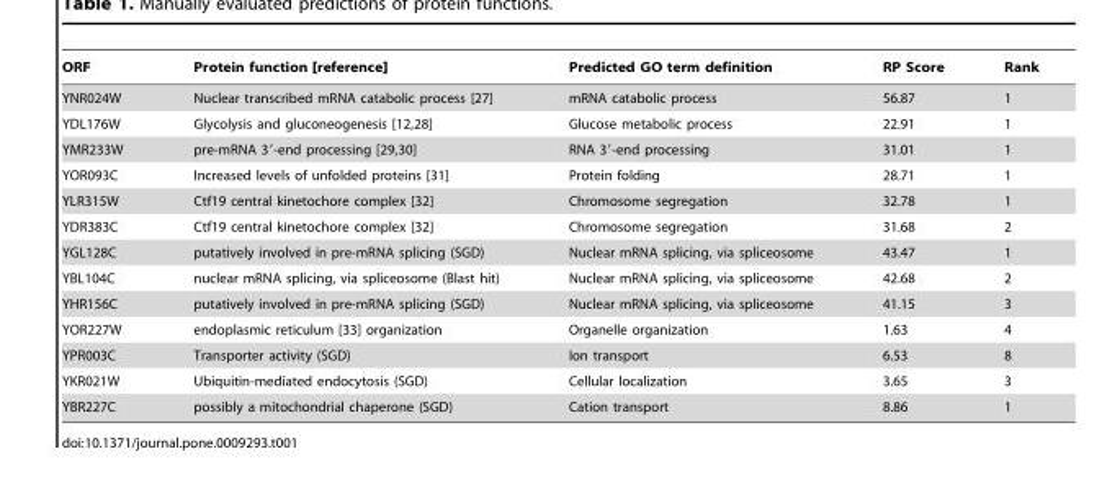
<table><thead><tr><td>ORF</td><td>Protein function [[reference]]</td><td>Predicted GO term definition</td><td>RP Score</td><td>Rank</td></tr></thead><tbody><tr><td>YNR024W</td><td>Nuclear transcribed mRNA catabolic process [27]</td><td>mRNA catabolic process</td><td>56.87</td><td>1</td></tr><tr><td>YDL176W</td><td>Glycolysis and gluconeogenesis [12,28]</td><td>Glucose metabolic process</td><td>22.91</td><td>1</td></tr><tr><td>YMR233W</td><td>pre-mRNA 39-end processing [29,30]</td><td>RNA 3′-end processing</td><td>31.01</td><td>1</td></tr><tr><td>YOR093C</td><td>Increased levels of unfolded proteins [31]</td><td>Protein folding</td><td>28.71</td><td>1</td></tr><tr><td>YLR315W</td><td>Ctf19 central kinetochore complex [32]</td><td>Chromosome segregation</td><td>32.78</td><td>1</td></tr><tr><td>YDR383C</td><td>Ctf19 central kinetochore complex [32]</td><td>Chromosome segregation</td><td>31.68</td><td>2</td></tr><tr><td>YGL128C</td><td>putatively involved in pre-mRNA splicing (SGD)</td><td>Nuclear mRNA splicing, via spliceosome</td><td>43.47</td><td>1</td></tr><tr><td>YBL104C</td><td>nuclear mRNA splicing, via spliceosome (Blast hit)</td><td>Nuclear mRNA splicing, via spliceosome</td><td>42.68</td><td>2</td></tr><tr><td>YHR156C</td><td>putatively involved in pre-mRNA splicing (SGD)</td><td>Nuclear mRNA splicing, via spliceosome</td><td>41.15</td><td>3</td></tr><tr><td>YOR227W</td><td>endoplasmic reticulum [33] organization</td><td>Organelle organization</td><td>1.63</td><td>4</td></tr><tr><td>YPR003C</td><td>Transporter activity (SGD)</td><td>Ion transport</td><td>6.53</td><td>8</td></tr><tr><td>YKR021W</td><td>Ubiquitin-mediated endocytosis (SGD)</td><td>Cellular localization</td><td>3.65</td><td>3</td></tr><tr><td>YBR227C</td><td>possibly a mitochondrial chaperone (SGD)</td><td>Cation transport</td><td>8.86</td><td>1</td></tr></tbody></table>